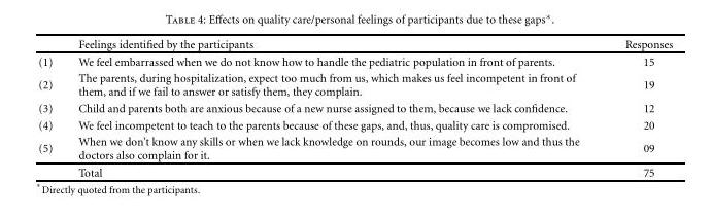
<table><thead><tr><td></td><td>Feelings identified by the participants</td><td>Responses</td></tr></thead><tbody><tr><td>(1)</td><td>We feel embarrassed when we do not know how to handle the pediatric population in front of parents.</td><td>15</td></tr><tr><td>(2)</td><td>The parents, during hospitalization, expect too much from us, which makes us feel incompetent in front of them, and if we fail to answer or satisfy them, they complain.</td><td>19</td></tr><tr><td>(3)</td><td>Child and parents both are anxious because of a new nurse assigned to them, because we lack confidence.</td><td>12</td></tr><tr><td>(4)</td><td>We feel incompetent to teach to the parents because of these gaps, and, thus, quality care is compromised.</td><td>20</td></tr><tr><td rowspan="2">(5)</td><td>When we don’t know any skills or when we lack knowledge on rounds, our image becomes low and thus the doctors also complain for it.</td><td>09</td></tr><tr><td>Total</td><td>75</td></tr></tbody></table>